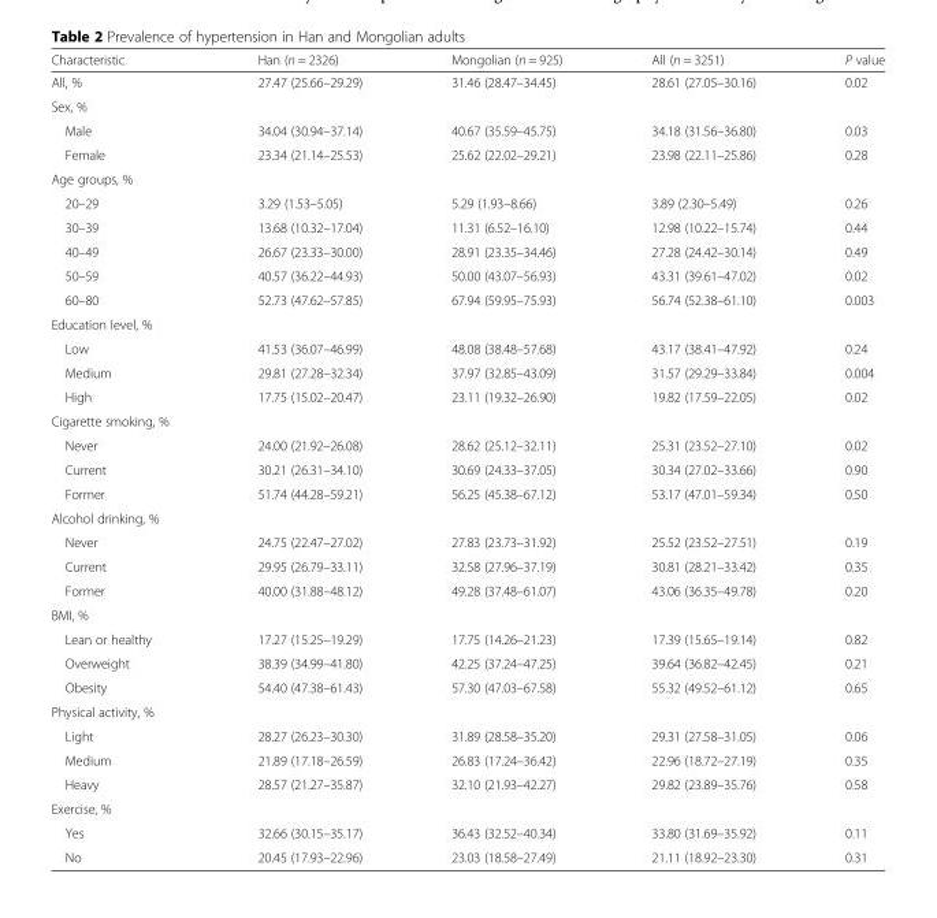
<table><thead><tr><td>Characteristic</td><td>Han (n = 2326)</td><td>Mongolian (n = 925)</td><td>All (n = 3251)</td><td>P value</td></tr></thead><tbody><tr><td>All, %</td><td>27.47 (25.66–29.29)</td><td>31.46 (28.47–34.45)</td><td>28.61 (27.05–30.16)</td><td>0.02</td></tr><tr><td colspan="5">Sex, %</td></tr><tr><td>Male</td><td>34.04 (30.94–37.14)</td><td>40.67 (35.59–45.75)</td><td>34.18 (31.56–36.80)</td><td>0.03</td></tr><tr><td>Female</td><td>23.34 (21.14–25.53)</td><td>25.62 (22.02–29.21)</td><td>23.98 (22.11–25.86)</td><td>0.28</td></tr><tr><td colspan="5">Age groups, %</td></tr><tr><td>20–29</td><td>3.29 (1.53–5.05)</td><td>5.29 (1.93–8.66)</td><td>3.89 (2.30–5.49)</td><td>0.26</td></tr><tr><td>30–39</td><td>13.68 (10.32–17.04)</td><td>11.31 (6.52–16.10)</td><td>12.98 (10.22–15.74)</td><td>0.44</td></tr><tr><td>40–49</td><td>26.67 (23.33–30.00)</td><td>28.91 (23.35–34.46)</td><td>27.28 (24.42–30.14)</td><td>0.49</td></tr><tr><td>50–59</td><td>40.57 (36.22–44.93)</td><td>50.00 (43.07–56.93)</td><td>43.31 (39.61–47.02)</td><td>0.02</td></tr><tr><td>60–80</td><td>52.73 (47.62–57.85)</td><td>67.94 (59.95–75.93)</td><td>56.74 (52.38–61.10)</td><td>0.003</td></tr><tr><td colspan="5">Education level, %</td></tr><tr><td>Low</td><td>41.53 (36.07–46.99)</td><td>48.08 (38.48–57.68)</td><td>43.17 (38.41–47.92)</td><td>0.24</td></tr><tr><td>Medium</td><td>29.81 (27.28–32.34)</td><td>37.97 (32.85–43.09)</td><td>31.57 (29.29–33.84)</td><td>0.004</td></tr><tr><td>High</td><td>17.75 (15.02–20.47)</td><td>23.11 (19.32–26.90)</td><td>19.82 (17.59–22.05)</td><td>0.02</td></tr><tr><td colspan="5">Cigarette smoking, %</td></tr><tr><td>Never</td><td>24.00 (21.92–26.08)</td><td>28.62 (25.12–32.11)</td><td>25.31 (23.52–27.10)</td><td>0.02</td></tr><tr><td>Current</td><td>30.21 (26.31–34.10)</td><td>30.69 (24.33–37.05)</td><td>30.34 (27.02–33.66)</td><td>0.90</td></tr><tr><td>Former</td><td>51.74 (44.28–59.21)</td><td>56.25 (45.38–67.12)</td><td>53.17 (47.01–59.34)</td><td>0.50</td></tr><tr><td colspan="5">Alcohol drinking, %</td></tr><tr><td>Never</td><td>24.75 (22.47–27.02)</td><td>27.83 (23.73–31.92)</td><td>25.52 (23.52–27.51)</td><td>0.19</td></tr><tr><td>Current</td><td>29.95 (26.79–33.11)</td><td>32.58 (27.96–37.19)</td><td>30.81 (28.21–33.42)</td><td>0.35</td></tr><tr><td>Former</td><td>40.00 (31.88–48.12)</td><td>49.28 (37.48–61.07)</td><td>43.06 (36.35–49.78)</td><td>0.20</td></tr><tr><td colspan="5">BMI, %</td></tr><tr><td>Lean or healthy</td><td>17.27 (15.25–19.29)</td><td>17.75 (14.26–21.23)</td><td>17.39 (15.65–19.14)</td><td>0.82</td></tr><tr><td>Overweight</td><td>38.39 (34.99–41.80)</td><td>42.25 (37.24–47.25)</td><td>39.64 (36.82–42.45)</td><td>0.21</td></tr><tr><td>Obesity</td><td>54.40 (47.38–61.43)</td><td>57.30 (47.03–67.58)</td><td>55.32 (49.52–61.12)</td><td>0.65</td></tr><tr><td colspan="5">Physical activity, %</td></tr><tr><td>Light</td><td>28.27 (26.23–30.30)</td><td>31.89 (28.58–35.20)</td><td>29.31 (27.58–31.05)</td><td>0.06</td></tr><tr><td>Medium</td><td>21.89 (17.18–26.59)</td><td>26.83 (17.24–36.42)</td><td>22.96 (18.72–27.19)</td><td>0.35</td></tr><tr><td>Heavy</td><td>28.57 (21.27–35.87)</td><td>32.10 (21.93–42.27)</td><td>29.82 (23.89–35.76)</td><td>0.58</td></tr><tr><td colspan="5">Exercise, %</td></tr><tr><td>Yes</td><td>32.66 (30.15–35.17)</td><td>36.43 (32.52–40.34)</td><td>33.80 (31.69–35.92)</td><td>0.11</td></tr><tr><td>No</td><td>20.45 (17.93–22.96)</td><td>23.03 (18.58–27.49)</td><td>21.11 (18.92–23.30)</td><td>0.31</td></tr></tbody></table>